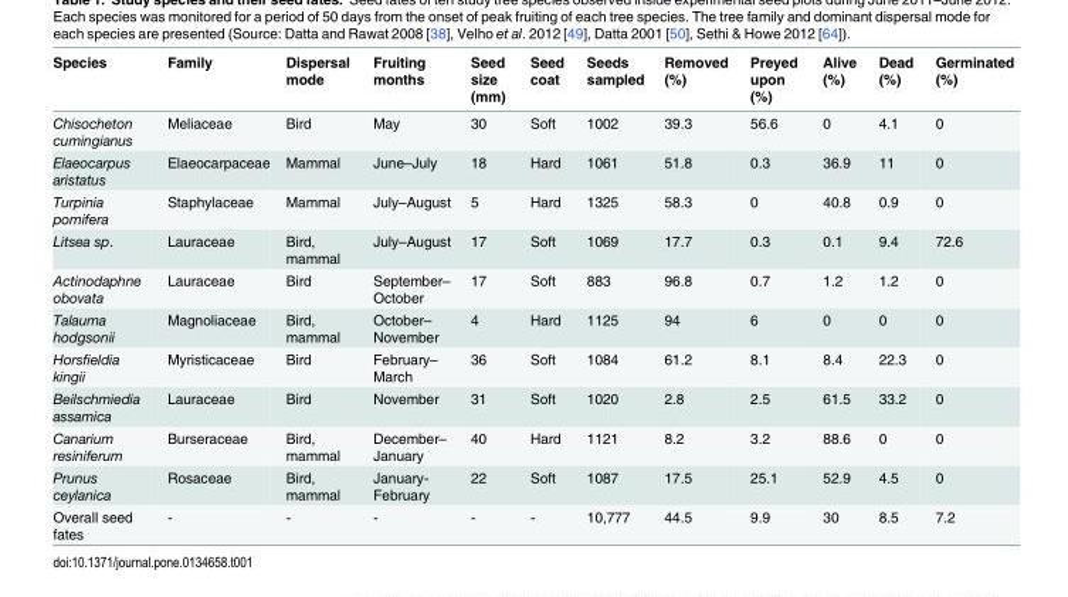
<table><thead><tr><td>Species</td><td>Family</td><td>Dispersal mode</td><td>Fruiting months</td><td>Seed size (mm)</td><td>Seed coat</td><td>Seeds sampled</td><td>Removed (%)</td><td>Preyed upon (%)</td><td>Alive (%)</td><td>Dead (%)</td><td>Germinated (%)</td></tr></thead><tbody><tr><td>Chisocheton cumingianus</td><td>Meliaceae</td><td>Bird</td><td>May</td><td>30</td><td>Soft</td><td>1002</td><td>39.3</td><td>56.6</td><td>0</td><td>4.1</td><td>0</td></tr><tr><td>Elaeocarpus aristatus</td><td>Elaeocarpaceae</td><td>Mammal</td><td>June–July</td><td>18</td><td>Hard</td><td>1061</td><td>51.8</td><td>0.3</td><td>36.9</td><td>11</td><td>0</td></tr><tr><td>Turpinia pomifera</td><td>Staphylaceae</td><td>Mammal</td><td>July–August</td><td>5</td><td>Hard</td><td>1325</td><td>58.3</td><td>0</td><td>40.8</td><td>0.9</td><td>0</td></tr><tr><td>Litsea sp.</td><td>Lauraceae</td><td>Bird, mammal</td><td>July–August</td><td>17</td><td>Soft</td><td>1069</td><td>17.7</td><td>0.3</td><td>0.1</td><td>9.4</td><td>72.6</td></tr><tr><td>Actinodaphne obovata</td><td>Lauraceae</td><td>Bird</td><td>September– October</td><td>17</td><td>Soft</td><td>883</td><td>96.8</td><td>0.7</td><td>1.2</td><td>1.2</td><td>0</td></tr><tr><td>Talauma hodgsonii</td><td>Magnoliaceae</td><td>Bird, mammal</td><td>October– November</td><td>4</td><td>Hard</td><td>1125</td><td>94</td><td>6</td><td>0</td><td>0</td><td>0</td></tr><tr><td>Horsfieldia kingii</td><td>Myristicaceae</td><td>Bird</td><td>February– March</td><td>36</td><td>Soft</td><td>1084</td><td>61.2</td><td>8.1</td><td>8.4</td><td>22.3</td><td>0</td></tr><tr><td>Beilschmiedia assamica</td><td>Lauraceae</td><td>Bird</td><td>November</td><td>31</td><td>Soft</td><td>1020</td><td>2.8</td><td>2.5</td><td>61.5</td><td>33.2</td><td>0</td></tr><tr><td>Canarium resiniferum</td><td>Burseraceae</td><td>Bird, mammal</td><td>December– January</td><td>40</td><td>Hard</td><td>1121</td><td>8.2</td><td>3.2</td><td>88.6</td><td>0</td><td>0</td></tr><tr><td>Prunus ceylanica</td><td>Rosaceae</td><td>Bird, mammal</td><td>January- February</td><td>22</td><td>Soft</td><td>1087</td><td>17.5</td><td>25.1</td><td>52.9</td><td>4.5</td><td>0</td></tr><tr><td>Overall seed fates</td><td>-</td><td>-</td><td>-</td><td>-</td><td>-</td><td>10,777</td><td>44.5</td><td>9.9</td><td>30</td><td>8.5</td><td>7.2</td></tr></tbody></table>